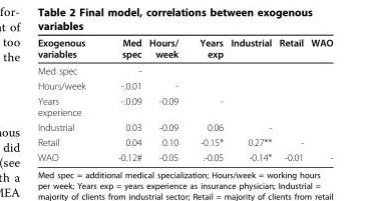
<table><thead><tr><td>Exogenous variables</td><td>Med spec</td><td>Hours/ week</td><td>Years exp</td><td>Industrial</td><td>Retail</td><td>WAO</td></tr></thead><tbody><tr><td>Med spec</td><td>-</td><td></td><td></td><td></td><td></td><td></td></tr><tr><td>Hours/week</td><td>-.0.01</td><td>-</td><td></td><td></td><td></td><td></td></tr><tr><td>Years experience</td><td>-.0.09</td><td>-0.09</td><td>-</td><td></td><td></td><td></td></tr><tr><td>Industrial</td><td>0.03</td><td>-0.09</td><td>0.06</td><td>-</td><td></td><td></td></tr><tr><td>Retail</td><td>0.04</td><td>0.10</td><td>-0.15*</td><td>0.27**</td><td>-</td><td></td></tr><tr><td>WAO</td><td>-0.12#</td><td>-0.05</td><td>.-0.05</td><td>-0.14*</td><td>-0.01</td><td>-</td></tr></tbody></table>